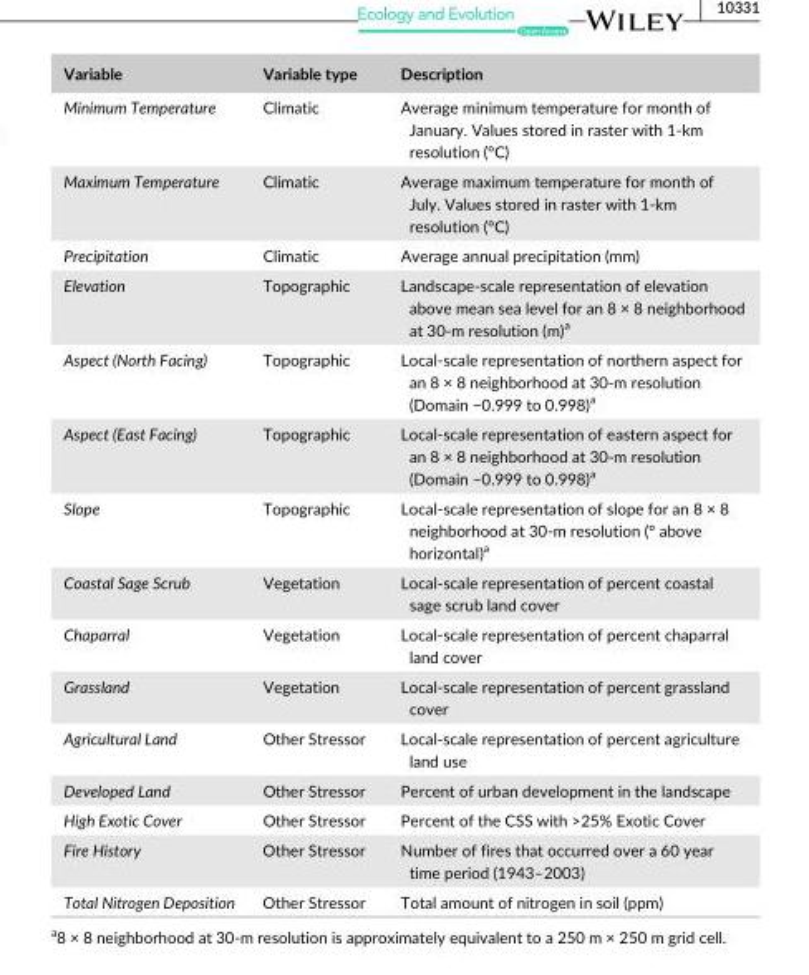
<table><thead><tr><td>Variable</td><td>Variable type</td><td>Description</td></tr></thead><tbody><tr><td>Minimum Temperature</td><td>Climatic</td><td>Average minimum temperature for month of January. Values stored in raster with 1- km resolution (°C)</td></tr><tr><td>Maximum Temperature</td><td>Climatic</td><td>Average maximum temperature for month of July. Values stored in raster with 1- km resolution (°C)</td></tr><tr><td>Precipitation</td><td>Climatic</td><td>Average annual precipitation (mm)</td></tr><tr><td>Elevation</td><td>Topographic</td><td>Landscape- scale representation of elevation above mean sea level for an 8 × 8 neighborhood at 30- m resolution (m)<sup>a</sup></td></tr><tr><td>Aspect (North Facing)</td><td>Topographic</td><td>Local- scale representation of northern aspect for an 8 × 8 neighborhood at 30- m resolution (Domain −0.999 to 0.998)<sup>a</sup></td></tr><tr><td>Aspect (East Facing)</td><td>Topographic</td><td>Local- scale representation of eastern aspect for an 8 × 8 neighborhood at 30- m resolution (Domain −0.999 to 0.998)<sup>a</sup></td></tr><tr><td>Slope</td><td>Topographic</td><td>Local- scale representation of slope for an 8 × 8 neighborhood at 30- m resolution (° above horizontal)<sup>a</sup></td></tr><tr><td>Coastal Sage Scrub</td><td>Vegetation</td><td>Local- scale representation of percent coastal sage scrub land cover</td></tr><tr><td>Chaparral</td><td>Vegetation</td><td>Local- scale representation of percent chaparral land cover</td></tr><tr><td>Grassland</td><td>Vegetation</td><td>Local- scale representation of percent grassland cover</td></tr><tr><td>Agricultural Land</td><td>Other Stressor</td><td>Local- scale representation of percent agriculture land use</td></tr><tr><td>Developed Land</td><td>Other Stressor</td><td>Percent of urban development in the landscape</td></tr><tr><td>High Exotic Cover</td><td>Other Stressor</td><td>Percent of the CSS with &gt;25% Exotic Cover</td></tr><tr><td>Fire History</td><td>Other Stressor</td><td>Number of fires that occurred over a 60 year time period (1943–2003)</td></tr><tr><td>Total Nitrogen Deposition</td><td>Other Stressor</td><td>Total amount of nitrogen in soil (ppm)</td></tr></tbody></table>